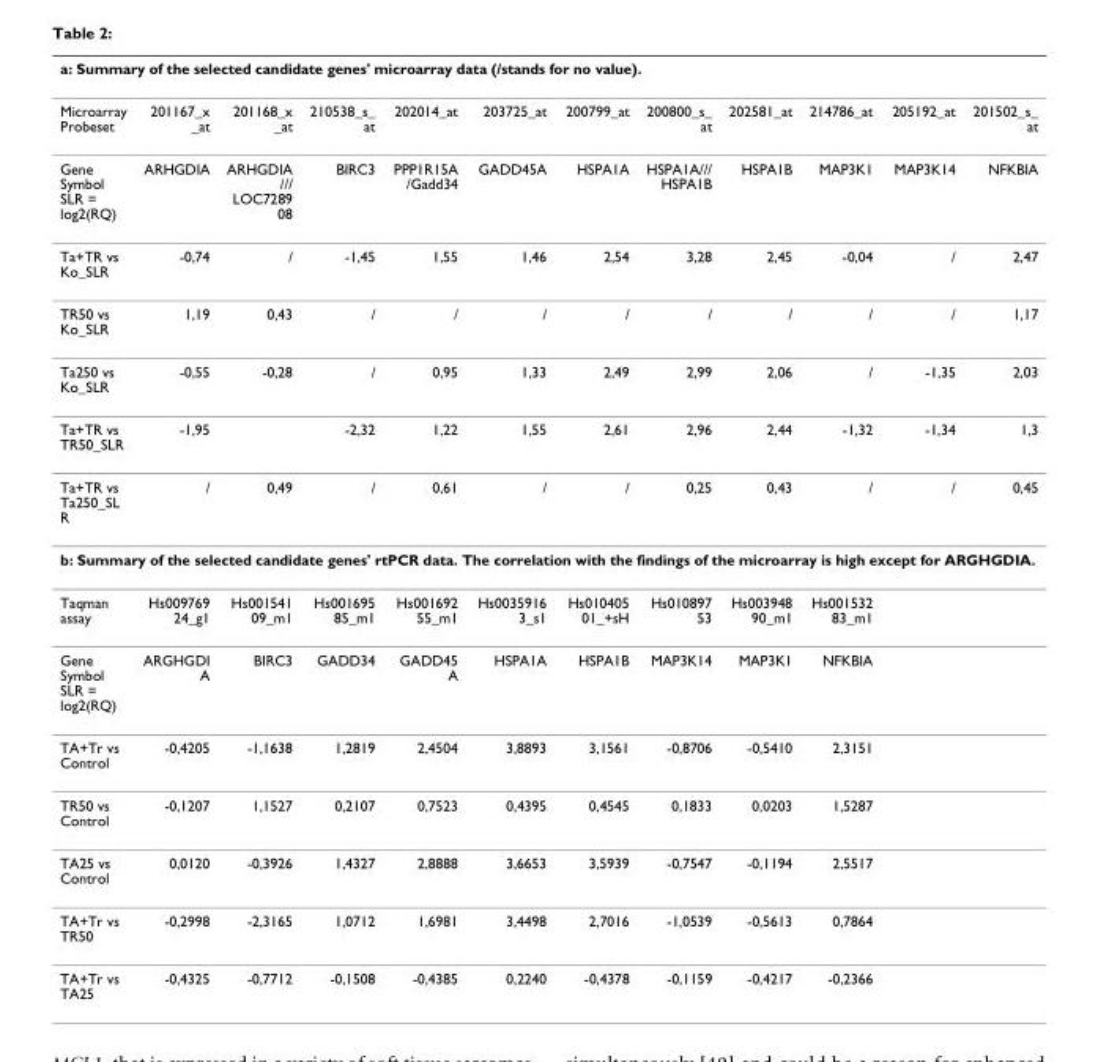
<table><thead><tr><td colspan="12">a: Summary of the selected candidate genes&#x27; microarray data (/stands for no value).</td></tr><tr><td>Microarray Probeset</td><td>201167_x _at</td><td>201168_x _at</td><td>210538_s_ at</td><td>202014_at</td><td>203725_at</td><td>200799_at</td><td>200800_s_ at</td><td>202581_at</td><td>214786_at</td><td>205192_at</td><td>201502_s_ at</td></tr></thead><tbody><tr><td>Gene Symbol SLR = log2(RQ)</td><td>ARHGDIA</td><td>ARHGDIA /// LOC7289 08</td><td>BIRC3</td><td>PPP1R15A /Gadd34</td><td>GADD45A</td><td>HSPA1A</td><td>HSPA1A/// HSPA1B</td><td>HSPA1B</td><td>MAP3K1</td><td>MAP3K14</td><td>NFKBIA</td></tr><tr><td>Ta+TR vs Ko_SLR</td><td>-0,74</td><td>/</td><td>-1,45</td><td>1,55</td><td>1,46</td><td>2,54</td><td>3,28</td><td>2,45</td><td>-0,04</td><td>/</td><td>2,47</td></tr><tr><td>TR50 vs Ko_SLR</td><td>1,19</td><td>0,43</td><td>/</td><td>/</td><td>/</td><td>/</td><td>/</td><td>/</td><td>/</td><td>/</td><td>1,17</td></tr><tr><td>Ta250 vs Ko_SLR</td><td>-0,55</td><td>-0,28</td><td>/</td><td>0,95</td><td>1,33</td><td>2,49</td><td>2,99</td><td>2,06</td><td>/</td><td>-1,35</td><td>2,03</td></tr><tr><td>Ta+TR vs TR50_SLR</td><td>-1,95</td><td></td><td>-2,32</td><td>1,22</td><td>1,55</td><td>2,61</td><td>2,96</td><td>2,44</td><td>-1,32</td><td>-1,34</td><td>1,3</td></tr><tr><td>Ta+TR vs Ta250_SL R</td><td>/</td><td>0,49</td><td>/</td><td>0,61</td><td>/</td><td>/</td><td>0,25</td><td>0,43</td><td>/</td><td>/</td><td>0,45</td></tr><tr><td colspan="12">b: Summary of the selected candidate genes&#x27; rtPCR data. The correlation with the findings of the microarray is high except for ARGHGDIA.</td></tr><tr><td>Taqman assay</td><td>Hs009769 24_g1</td><td>Hs001541 09_m1</td><td>Hs001695 85_m1</td><td>Hs001692 55_m1</td><td>Hs0035916 3_s1</td><td>Hs010405 01_+sH</td><td>Hs010897 53</td><td>Hs003948 90_m1</td><td>Hs001532 83_m1</td><td></td><td></td></tr><tr><td>Gene Symbol SLR = log2(RQ)</td><td>ARGHGDI A</td><td>BIRC3</td><td>GADD34</td><td>GADD45 A</td><td>HSPA1A</td><td>HSPA1B</td><td>MAP3K14</td><td>MAP3K1</td><td>NFKBIA</td><td></td><td></td></tr><tr><td>TA+Tr vs Control</td><td>-0,4205</td><td>-1,1638</td><td>1,2819</td><td>2,4504</td><td>3,8893</td><td>3,1561</td><td>-0,8706</td><td>-0,5410</td><td>2,3151</td><td></td><td></td></tr><tr><td>TR50 vs Control</td><td>-0,1207</td><td>1,1527</td><td>0,2107</td><td>0,7523</td><td>0,4395</td><td>0,4545</td><td>0,1833</td><td>0,0203</td><td>1,5287</td><td></td><td></td></tr><tr><td>TA25 vs Control</td><td>0,0120</td><td>-0,3926</td><td>1,4327</td><td>2,8888</td><td>3,6653</td><td>3,5939</td><td>-0,7547</td><td>-0,1194</td><td>2,5517</td><td></td><td></td></tr><tr><td>TA+Tr vs TR50</td><td>-0,2998</td><td>-2,3165</td><td>1,0712</td><td>1,6981</td><td>3,4498</td><td>2,7016</td><td>-1,0539</td><td>-0,5613</td><td>0,7864</td><td></td><td></td></tr><tr><td>TA+Tr vs TA25</td><td>-0,4325</td><td>-0,7712</td><td>-0,1508</td><td>-0,4385</td><td>0,2240</td><td>-0,4378</td><td>-0,1159</td><td>-0,4217</td><td>-0,2366</td><td></td><td></td></tr></tbody></table>